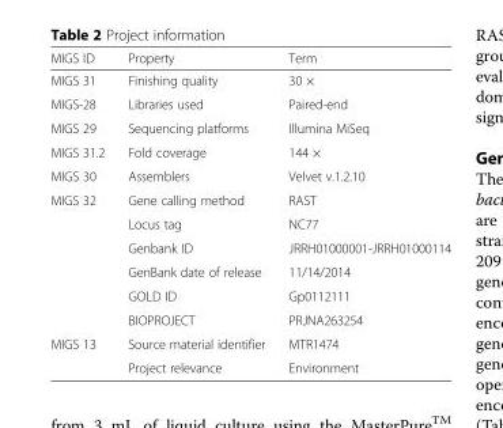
<table><thead><tr><td>MIGS ID</td><td>Property</td><td>Term</td></tr></thead><tbody><tr><td>MIGS 31</td><td>Finishing quality</td><td>30 ×</td></tr><tr><td>MIGS-28</td><td>Libraries used</td><td>Paired-end</td></tr><tr><td>MIGS 29</td><td>Sequencing platforms</td><td>Illumina MiSeq</td></tr><tr><td>MIGS 31.2</td><td>Fold coverage</td><td>144 ×</td></tr><tr><td>MIGS 30</td><td>Assemblers</td><td>Velvet v.1.2.10</td></tr><tr><td rowspan="6">MIGS 32</td><td>Gene calling method</td><td>RAST</td></tr><tr><td>Locus tag</td><td>NC77</td></tr><tr><td>Genbank ID</td><td>JRRH01000001-JRRH01000114</td></tr><tr><td>GenBank date of release</td><td>11/14/2014</td></tr><tr><td>GOLD ID</td><td>Gp0112111</td></tr><tr><td>BIOPROJECT</td><td>PRJNA263254</td></tr><tr><td rowspan="2">MIGS 13</td><td>Source material identifier</td><td>MTR1474</td></tr><tr><td>Project relevance</td><td>Environment</td></tr></tbody></table>